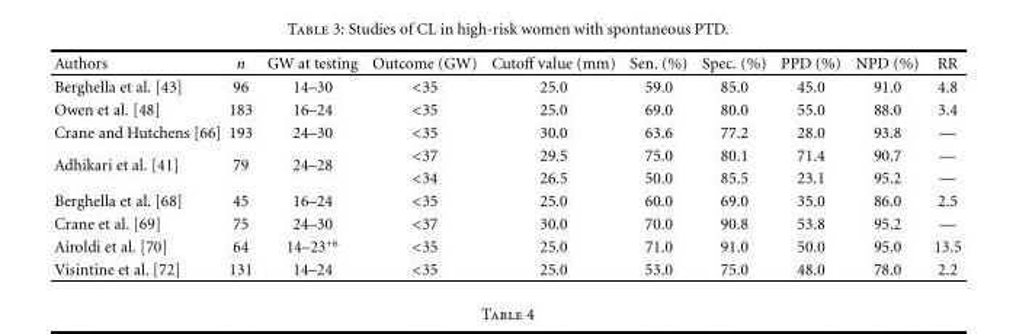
<table><thead><tr><td>Authors</td><td>n</td><td>GW at testing</td><td>Outcome (GW)</td><td>Cutoff value (mm)</td><td>Sen. (%)</td><td>Spec. (%)</td><td>PPD (%)</td><td>NPD (%)</td><td>RR</td></tr></thead><tbody><tr><td>Berghella et al. [43]</td><td>96</td><td>14–30</td><td>&lt;35</td><td>25.0</td><td>59.0</td><td>85.0</td><td>45.0</td><td>91.0</td><td>4.8</td></tr><tr><td>Owen et al. [48]</td><td>183</td><td>16–24</td><td>&lt;35</td><td>25.0</td><td>69.0</td><td>80.0</td><td>55.0</td><td>88.0</td><td>3.4</td></tr><tr><td>Crane and Hutchens [66]</td><td>193</td><td>24–30</td><td>&lt;35</td><td>30.0</td><td>63.6</td><td>77.2</td><td>28.0</td><td>93.8</td><td>—</td></tr><tr><td rowspan="2">Adhikari et al. [41]</td><td rowspan="2">79</td><td rowspan="2">24–28</td><td>&lt;37</td><td>29.5</td><td>75.0</td><td>80.1</td><td>71.4</td><td>90.7</td><td>—</td></tr><tr><td>&lt;34</td><td>26.5</td><td>50.0</td><td>85.5</td><td>23.1</td><td>95.2</td><td>—</td></tr><tr><td>Berghella et al. [68]</td><td>45</td><td>16–24</td><td>&lt;35</td><td>25.0</td><td>60.0</td><td>69.0</td><td>35.0</td><td>86.0</td><td>2.5</td></tr><tr><td>Crane et al. [69]</td><td>75</td><td>24–30</td><td>&lt;37</td><td>30.0</td><td>70.0</td><td>90.8</td><td>53.8</td><td>95.2</td><td>—</td></tr><tr><td>Airoldi et al. [70]</td><td>64</td><td>14–23<sup>+6</sup></td><td>&lt;35</td><td>25.0</td><td>71.0</td><td>91.0</td><td>50.0</td><td>95.0</td><td>13.5</td></tr><tr><td>Visintine et al. [72]</td><td>131</td><td>14–24</td><td>&lt;35</td><td>25.0</td><td>53.0</td><td>75.0</td><td>48.0</td><td>78.0</td><td>2.2</td></tr></tbody></table>